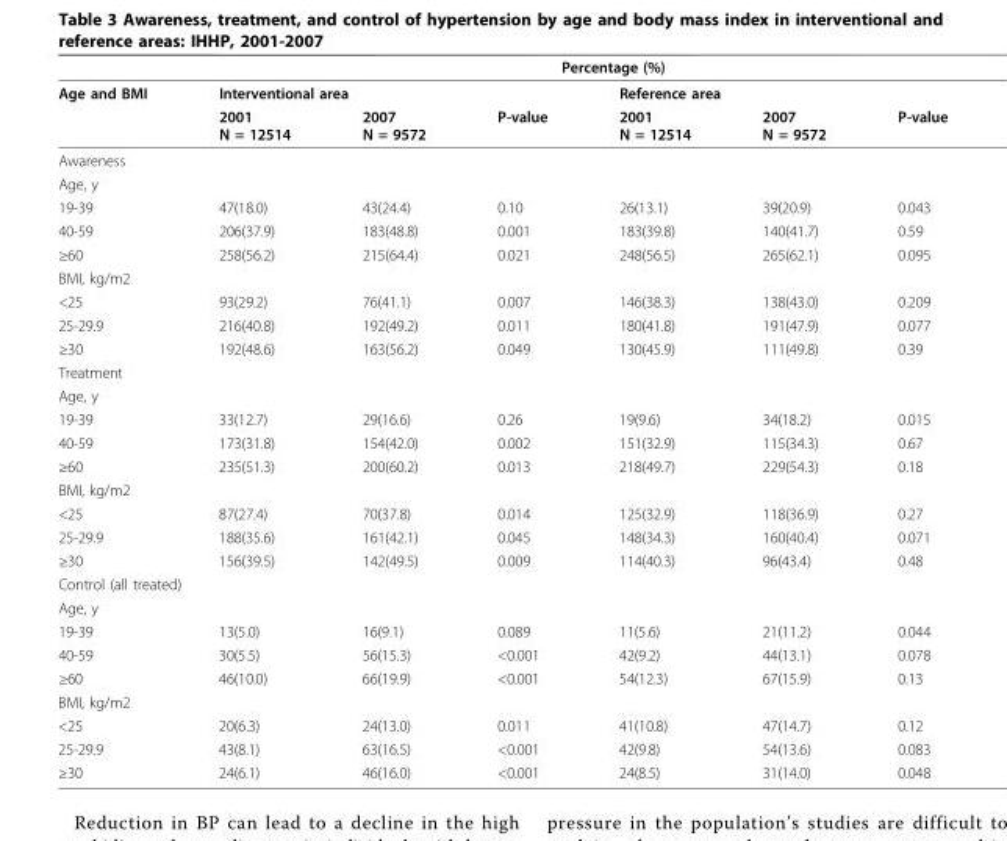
<table><thead><tr><td rowspan="3">Age and BMI</td><td colspan="6">Percentage (%)</td></tr><tr><td colspan="3">Interventional area</td><td colspan="3">Reference area</td></tr><tr><td>2001 N = 12514</td><td>2007 N = 9572</td><td>P-value</td><td>2001 N = 12514</td><td>2007 N = 9572</td><td>P-value</td></tr></thead><tbody><tr><td colspan="7">Awareness</td></tr><tr><td colspan="7">Age, y</td></tr><tr><td>19-39</td><td>47(18.0)</td><td>43(24.4)</td><td>0.10</td><td>26(13.1)</td><td>39(20.9)</td><td>0.043</td></tr><tr><td>40-59</td><td>206(37.9)</td><td>183(48.8)</td><td>0.001</td><td>183(39.8)</td><td>140(41.7)</td><td>0.59</td></tr><tr><td>≥60</td><td>258(56.2)</td><td>215(64.4)</td><td>0.021</td><td>248(56.5)</td><td>265(62.1)</td><td>0.095</td></tr><tr><td colspan="7">BMI, kg/m2</td></tr><tr><td>&lt;25</td><td>93(29.2)</td><td>76(41.1)</td><td>0.007</td><td>146(38.3)</td><td>138(43.0)</td><td>0.209</td></tr><tr><td>25-29.9</td><td>216(40.8)</td><td>192(49.2)</td><td>0.011</td><td>180(41.8)</td><td>191(47.9)</td><td>0.077</td></tr><tr><td>≥30</td><td>192(48.6)</td><td>163(56.2)</td><td>0.049</td><td>130(45.9)</td><td>111(49.8)</td><td>0.39</td></tr><tr><td colspan="7">Treatment</td></tr><tr><td colspan="7">Age, y</td></tr><tr><td>19-39</td><td>33(12.7)</td><td>29(16.6)</td><td>0.26</td><td>19(9.6)</td><td>34(18.2)</td><td>0.015</td></tr><tr><td>40-59</td><td>173(31.8)</td><td>154(42.0)</td><td>0.002</td><td>151(32.9)</td><td>115(34.3)</td><td>0.67</td></tr><tr><td>≥60</td><td>235(51.3)</td><td>200(60.2)</td><td>0.013</td><td>218(49.7)</td><td>229(54.3)</td><td>0.18</td></tr><tr><td colspan="7">BMI, kg/m2</td></tr><tr><td>&lt;25</td><td>87(27.4)</td><td>70(37.8)</td><td>0.014</td><td>125(32.9)</td><td>118(36.9)</td><td>0.27</td></tr><tr><td>25-29.9</td><td>188(35.6)</td><td>161(42.1)</td><td>0.045</td><td>148(34.3)</td><td>160(40.4)</td><td>0.071</td></tr><tr><td>≥30</td><td>156(39.5)</td><td>142(49.5)</td><td>0.009</td><td>114(40.3)</td><td>96(43.4)</td><td>0.48</td></tr><tr><td colspan="7">Control (all treated)</td></tr><tr><td colspan="7">Age, y</td></tr><tr><td>19-39</td><td>13(5.0)</td><td>16(9.1)</td><td>0.089</td><td>11(5.6)</td><td>21(11.2)</td><td>0.044</td></tr><tr><td>40-59</td><td>30(5.5)</td><td>56(15.3)</td><td>&lt;0.001</td><td>42(9.2)</td><td>44(13.1)</td><td>0.078</td></tr><tr><td>≥60</td><td>46(10.0)</td><td>66(19.9)</td><td>&lt;0.001</td><td>54(12.3)</td><td>67(15.9)</td><td>0.13</td></tr><tr><td colspan="7">BMI, kg/m2</td></tr><tr><td>&lt;25</td><td>20(6.3)</td><td>24(13.0)</td><td>0.011</td><td>41(10.8)</td><td>47(14.7)</td><td>0.12</td></tr><tr><td>25-29.9</td><td>43(8.1)</td><td>63(16.5)</td><td>&lt;0.001</td><td>42(9.8)</td><td>54(13.6)</td><td>0.083</td></tr><tr><td>≥30</td><td>24(6.1)</td><td>46(16.0)</td><td>&lt;0.001</td><td>24(8.5)</td><td>31(14.0)</td><td>0.048</td></tr></tbody></table>